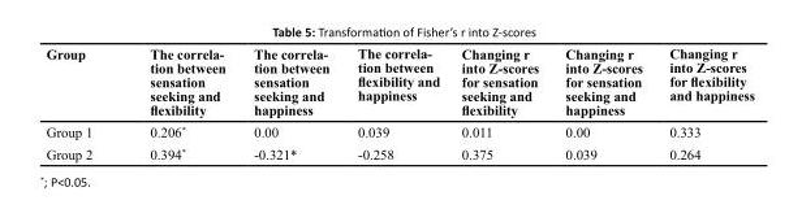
<table><thead><tr><td>Group</td><td>The correla- tion between sensation seeking and flexibility</td><td>The correla- tion between sensation seeking and happiness</td><td>The correla- tion between flexibility and happiness</td><td>Changing r into Z-scores for sensation seeking and flexibility</td><td>Changing r into Z-scores for sensation seeking and happiness</td><td>Changing r into Z-scores for flexibility and happiness</td></tr></thead><tbody><tr><td>Group 1</td><td>0.206*</td><td>0.00</td><td>0.039</td><td>0.011</td><td>0.00</td><td>0.333</td></tr><tr><td>Group 2</td><td>0.394*</td><td>-0.321*</td><td>-0.258</td><td>0.375</td><td>0.039</td><td>0.264</td></tr></tbody></table>